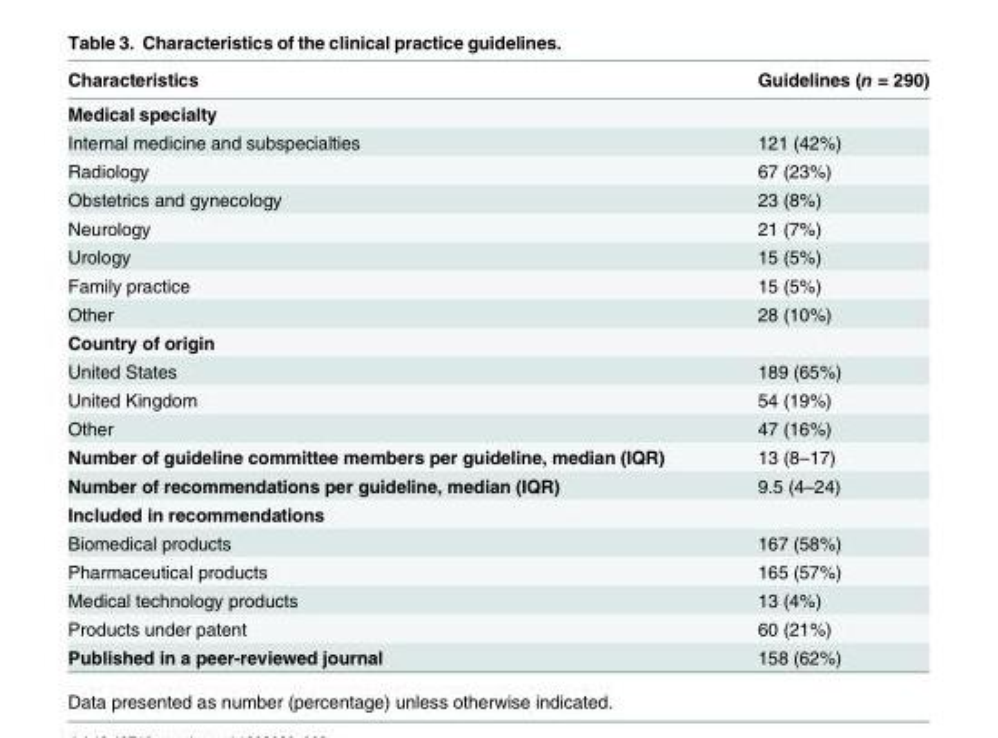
<table><thead><tr><td>Characteristics</td><td>Guidelines (n = 290)</td></tr></thead><tbody><tr><td colspan="2">Medical specialty</td></tr><tr><td>Internal medicine and subspecialties</td><td>121 (42%)</td></tr><tr><td>Radiology</td><td>67 (23%)</td></tr><tr><td>Obstetrics and gynecology</td><td>23 (8%)</td></tr><tr><td>Neurology</td><td>21 (7%)</td></tr><tr><td>Urology</td><td>15 (5%)</td></tr><tr><td>Family practice</td><td>15 (5%)</td></tr><tr><td>Other</td><td>28 (10%)</td></tr><tr><td colspan="2">Country of origin</td></tr><tr><td>United States</td><td>189 (65%)</td></tr><tr><td>United Kingdom</td><td>54 (19%)</td></tr><tr><td>Other</td><td>47 (16%)</td></tr><tr><td>Number of guideline committee members per guideline, median (IQR)</td><td>13 (8–17)</td></tr><tr><td>Number of recommendations per guideline, median (IQR)</td><td>9.5 (4–24)</td></tr><tr><td colspan="2">Included in recommendations</td></tr><tr><td>Biomedical products</td><td>167 (58%)</td></tr><tr><td>Pharmaceutical products</td><td>165 (57%)</td></tr><tr><td>Medical technology products</td><td>13 (4%)</td></tr><tr><td>Products under patent</td><td>60 (21%)</td></tr><tr><td>Published in a peer-reviewed journal</td><td>158 (62%)</td></tr></tbody></table>